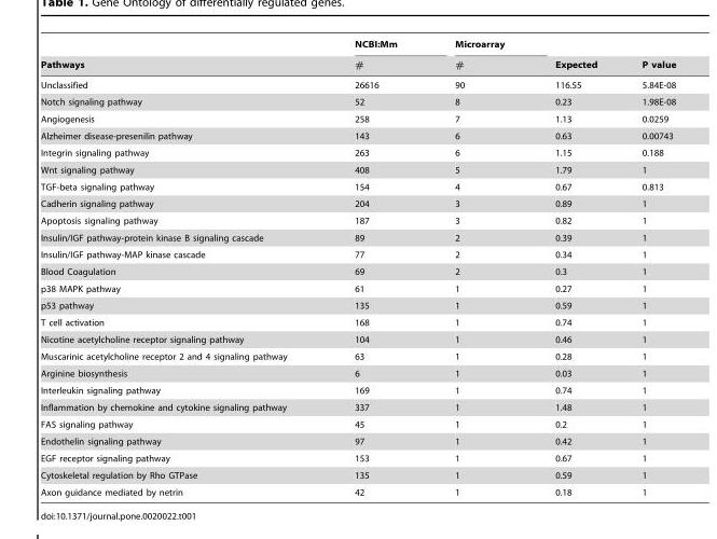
<table><thead><tr><td rowspan="2">Pathways</td><td rowspan="2">NCBI:Mm #</td><td rowspan="2">Microarray #</td><td rowspan="2">Expected</td><td rowspan="2">P value</td></tr><tr></tr></thead><tbody><tr><td>Unclassified</td><td>26616</td><td>90</td><td>116.55</td><td>5.84E-08</td></tr><tr><td>Notch signaling pathway</td><td>52</td><td>8</td><td>0.23</td><td>1.98E-08</td></tr><tr><td>Angiogenesis</td><td>258</td><td>7</td><td>1.13</td><td>0.0259</td></tr><tr><td>Alzheimer disease-presenilin pathway</td><td>143</td><td>6</td><td>0.63</td><td>0.00743</td></tr><tr><td>Integrin signaling pathway</td><td>263</td><td>6</td><td>1.15</td><td>0.188</td></tr><tr><td>Wnt signaling pathway</td><td>408</td><td>5</td><td>1.79</td><td>1</td></tr><tr><td>TGF-beta signaling pathway</td><td>154</td><td>4</td><td>0.67</td><td>0.813</td></tr><tr><td>Cadherin signaling pathway</td><td>204</td><td>3</td><td>0.89</td><td>1</td></tr><tr><td>Apoptosis signaling pathway</td><td>187</td><td>3</td><td>0.82</td><td>1</td></tr><tr><td>Insulin/IGF pathway-protein kinase B signaling cascade</td><td>89</td><td>2</td><td>0.39</td><td>1</td></tr><tr><td>Insulin/IGF pathway-MAP kinase cascade</td><td>77</td><td>2</td><td>0.34</td><td>1</td></tr><tr><td>Blood Coagulation</td><td>69</td><td>2</td><td>0.3</td><td>1</td></tr><tr><td>p38 MAPK pathway</td><td>61</td><td>1</td><td>0.27</td><td>1</td></tr><tr><td>p53 pathway</td><td>135</td><td>1</td><td>0.59</td><td>1</td></tr><tr><td>T cell activation</td><td>168</td><td>1</td><td>0.74</td><td>1</td></tr><tr><td>Nicotine acetylcholine receptor signaling pathway</td><td>104</td><td>1</td><td>0.46</td><td>1</td></tr><tr><td>Muscarinic acetylcholine receptor 2 and 4 signaling pathway</td><td>63</td><td>1</td><td>0.28</td><td>1</td></tr><tr><td>Arginine biosynthesis</td><td>6</td><td>1</td><td>0.03</td><td>1</td></tr><tr><td>Interleukin signaling pathway</td><td>169</td><td>1</td><td>0.74</td><td>1</td></tr><tr><td>Inflammation by chemokine and cytokine signaling pathway</td><td>337</td><td>1</td><td>1.48</td><td>1</td></tr><tr><td>FAS signaling pathway</td><td>45</td><td>1</td><td>0.2</td><td>1</td></tr><tr><td>Endothelin signaling pathway</td><td>97</td><td>1</td><td>0.42</td><td>1</td></tr><tr><td>EGF receptor signaling pathway</td><td>153</td><td>1</td><td>0.67</td><td>1</td></tr><tr><td>Cytoskeletal regulation by Rho GTPase</td><td>135</td><td>1</td><td>0.59</td><td>1</td></tr><tr><td>Axon guidance mediated by netrin</td><td>42</td><td>1</td><td>0.18</td><td>1</td></tr></tbody></table>